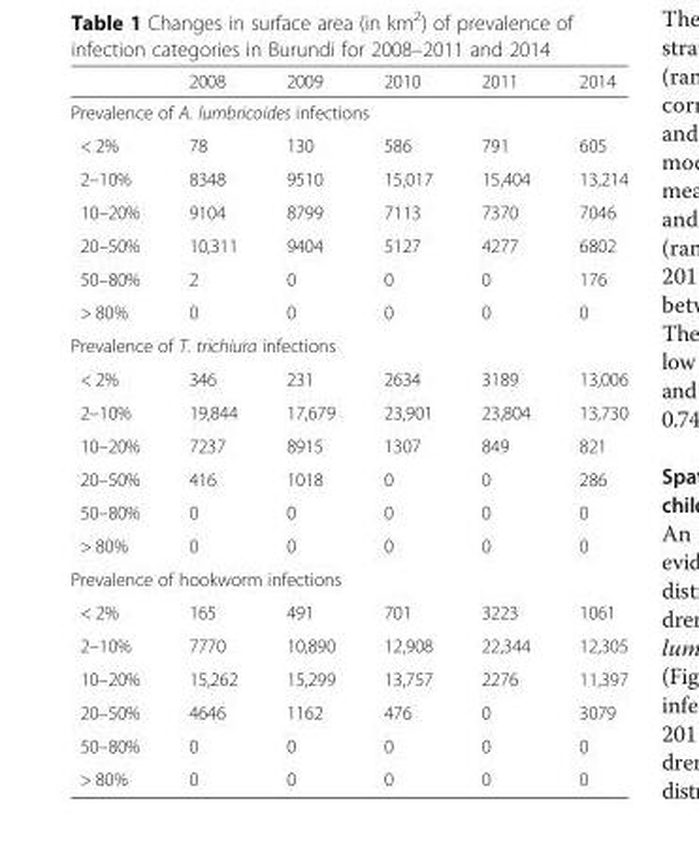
<table><thead><tr><td></td><td>2008</td><td>2009</td><td>2010</td><td>2011</td><td>2014</td></tr></thead><tbody><tr><td colspan="6">Prevalence of A. lumbricoides infections</td></tr><tr><td>&lt; 2%</td><td>78</td><td>130</td><td>586</td><td>791</td><td>605</td></tr><tr><td>2–10%</td><td>8348</td><td>9510</td><td>15,017</td><td>15,404</td><td>13,214</td></tr><tr><td>10–20%</td><td>9104</td><td>8799</td><td>7113</td><td>7370</td><td>7046</td></tr><tr><td>20–50%</td><td>10,311</td><td>9404</td><td>5127</td><td>4277</td><td>6802</td></tr><tr><td>50–80%</td><td>2</td><td>0</td><td>0</td><td>0</td><td>176</td></tr><tr><td>&gt; 80%</td><td>0</td><td>0</td><td>0</td><td>0</td><td>0</td></tr><tr><td colspan="6">Prevalence of T. trichiura infections</td></tr><tr><td>&lt; 2%</td><td>346</td><td>231</td><td>2634</td><td>3189</td><td>13,006</td></tr><tr><td>2–10%</td><td>19,844</td><td>17,679</td><td>23,901</td><td>23,804</td><td>13,730</td></tr><tr><td>10–20%</td><td>7237</td><td>8915</td><td>1307</td><td>849</td><td>821</td></tr><tr><td>20–50%</td><td>416</td><td>1018</td><td>0</td><td>0</td><td>286</td></tr><tr><td>50–80%</td><td>0</td><td>0</td><td>0</td><td>0</td><td>0</td></tr><tr><td>&gt; 80%</td><td>0</td><td>0</td><td>0</td><td>0</td><td>0</td></tr><tr><td colspan="6">Prevalence of hookworm infections</td></tr><tr><td>&lt; 2%</td><td>165</td><td>491</td><td>701</td><td>3223</td><td>1061</td></tr><tr><td>2–10%</td><td>7770</td><td>10,890</td><td>12,908</td><td>22,344</td><td>12,305</td></tr><tr><td>10–20%</td><td>15,262</td><td>15,299</td><td>13,757</td><td>2276</td><td>11,397</td></tr><tr><td>20–50%</td><td>4646</td><td>1162</td><td>476</td><td>0</td><td>3079</td></tr><tr><td>50–80%</td><td>0</td><td>0</td><td>0</td><td>0</td><td>0</td></tr><tr><td>&gt; 80%</td><td>0</td><td>0</td><td>0</td><td>0</td><td>0</td></tr></tbody></table>